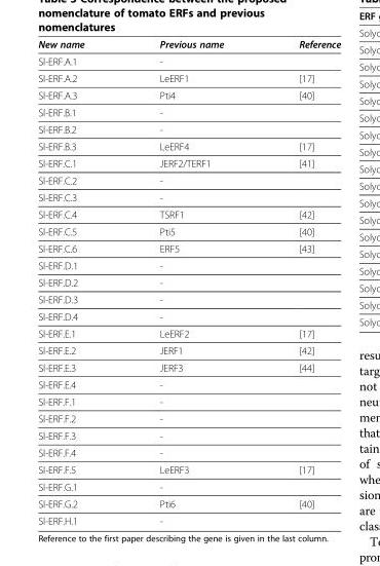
<table><thead><tr><td>New name</td><td>Previous name</td><td>Reference</td></tr></thead><tbody><tr><td>Sl-ERF.A.1</td><td>-</td><td></td></tr><tr><td>Sl-ERF.A.2</td><td>LeERF1</td><td>[17]</td></tr><tr><td>Sl-ERF.A.3</td><td>Pti4</td><td>[40]</td></tr><tr><td>Sl-ERF.B.1</td><td>-</td><td></td></tr><tr><td>Sl-ERF.B.2</td><td>-</td><td></td></tr><tr><td>Sl-ERF.B.3</td><td>LeERF4</td><td>[17]</td></tr><tr><td>Sl-ERF.C.1</td><td>JERF2/TERF1</td><td>[41]</td></tr><tr><td>Sl-ERF.C.2</td><td>-</td><td></td></tr><tr><td>Sl-ERF.C.3</td><td>-</td><td></td></tr><tr><td>Sl-ERF.C.4</td><td>TSRF1</td><td>[42]</td></tr><tr><td>Sl-ERF.C.5</td><td>Pti5</td><td>[40]</td></tr><tr><td>Sl-ERF.C.6</td><td>ERF5</td><td>[43]</td></tr><tr><td>Sl-ERF.D.1</td><td>-</td><td></td></tr><tr><td>Sl-ERF.D.2</td><td>-</td><td></td></tr><tr><td>Sl-ERF.D.3</td><td>-</td><td></td></tr><tr><td>Sl-ERF.D.4</td><td>-</td><td></td></tr><tr><td>Sl-ERF.E.1</td><td>LeERF2</td><td>[17]</td></tr><tr><td>Sl-ERF.E.2</td><td>JERF1</td><td>[42]</td></tr><tr><td>Sl-ERF.E.3</td><td>JERF3</td><td>[44]</td></tr><tr><td>Sl-ERF.E.4</td><td>-</td><td></td></tr><tr><td>Sl-ERF.F.1</td><td>-</td><td></td></tr><tr><td>Sl-ERF.F.2</td><td>-</td><td></td></tr><tr><td>Sl-ERF.F.3</td><td>-</td><td></td></tr><tr><td>Sl-ERF.F.4</td><td>-</td><td></td></tr><tr><td>Sl-ERF.F.5</td><td>LeERF3</td><td>[17]</td></tr><tr><td>Sl-ERF.G.1</td><td>-</td><td></td></tr><tr><td>Sl-ERF.G.2</td><td>Pti6</td><td>[40]</td></tr><tr><td>Sl-ERF.H.1</td><td>-</td><td></td></tr></tbody></table>